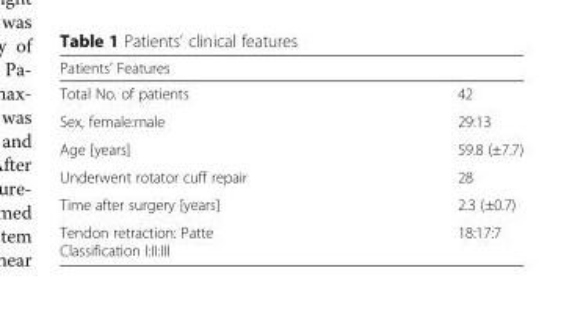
<table><thead><tr><td colspan="2">Patients’ Features</td></tr><tr><td>Total No. of patients</td><td>42</td></tr></thead><tbody><tr><td>Sex, female:male</td><td>29:13</td></tr><tr><td>Age [years]</td><td>59.8 (±7.7)</td></tr><tr><td>Underwent rotator cuff repair</td><td>28</td></tr><tr><td>Time after surgery [years]</td><td>2.3 (±0.7)</td></tr><tr><td>Tendon retraction: Patte Classification I:II:III</td><td>18:17:7</td></tr></tbody></table>